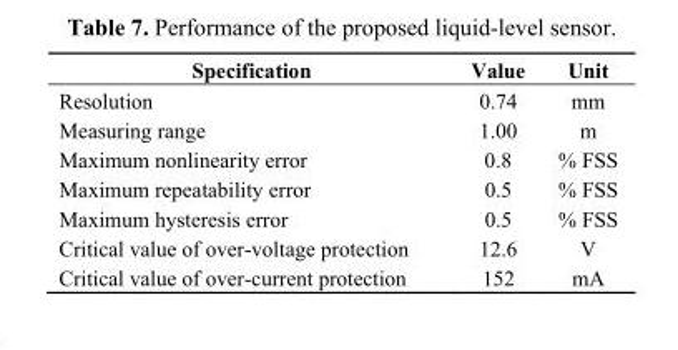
<table><thead><tr><td>Specification</td><td>Value</td><td>Unit</td></tr></thead><tbody><tr><td>Resolution</td><td>0.74</td><td>mm</td></tr><tr><td>Measuring range</td><td>1.00</td><td>m</td></tr><tr><td>Maximum nonlinearity error</td><td>0.8</td><td>% FSS</td></tr><tr><td>Maximum repeatability error</td><td>0.5</td><td>% FSS</td></tr><tr><td>Maximum hysteresis error</td><td>0.5</td><td>% FSS</td></tr><tr><td>Critical value of over-voltage protection</td><td>12.6</td><td>V</td></tr><tr><td>Critical value of over-current protection</td><td>152</td><td>mA</td></tr></tbody></table>